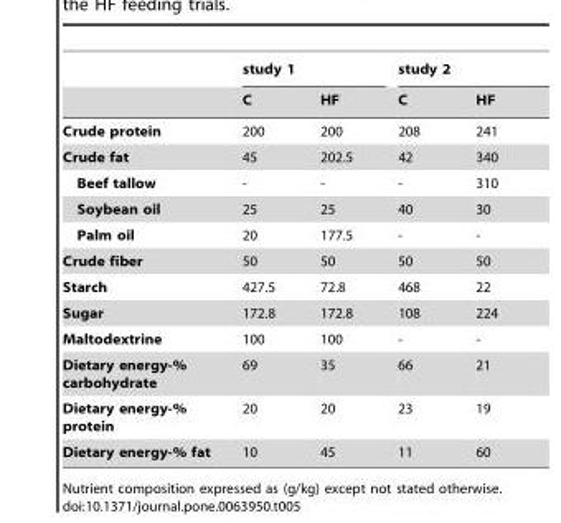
<table><thead><tr><td rowspan="2"></td><td colspan="2">study 1</td><td colspan="2">study 2</td></tr><tr><td>C</td><td>HF</td><td>C</td><td>HF</td></tr></thead><tbody><tr><td>Crude protein</td><td>200</td><td>200</td><td>208</td><td>241</td></tr><tr><td>Crude fat</td><td>45</td><td>202.5</td><td>42</td><td>340</td></tr><tr><td>Beef tallow</td><td>-</td><td>-</td><td>-</td><td>310</td></tr><tr><td>Soybean oil</td><td>25</td><td>25</td><td>40</td><td>30</td></tr><tr><td>Palm oil</td><td>20</td><td>177.5</td><td>-</td><td>-</td></tr><tr><td>Crude fiber</td><td>50</td><td>50</td><td>50</td><td>50</td></tr><tr><td>Starch</td><td>427.5</td><td>72.8</td><td>468</td><td>22</td></tr><tr><td>Sugar</td><td>172.8</td><td>172.8</td><td>108</td><td>224</td></tr><tr><td>Maltodextrine</td><td>100</td><td>100</td><td>-</td><td>-</td></tr><tr><td>Dietary energy-% carbohydrate</td><td>69</td><td>35</td><td>66</td><td>21</td></tr><tr><td>Dietary energy-% protein</td><td>20</td><td>20</td><td>23</td><td>19</td></tr><tr><td>Dietary energy-% fat</td><td>10</td><td>45</td><td>11</td><td>60</td></tr></tbody></table>